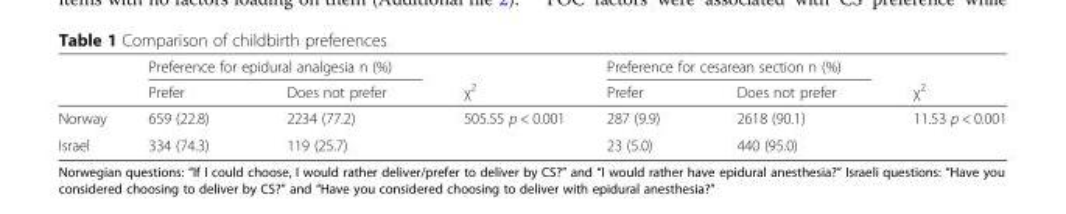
<table><thead><tr><td rowspan="2"></td><td colspan="2">Preference for epidural analgesia n (%)</td><td rowspan="2">χ<sup>2</sup></td><td colspan="2">Preference for cesarean section n (%)</td><td rowspan="2">χ<sup>2</sup></td></tr><tr><td>Prefer</td><td>Does not prefer</td><td>Prefer</td><td>Does not prefer</td></tr></thead><tbody><tr><td>Norway</td><td>659 (22.8)</td><td>2234 (77.2)</td><td rowspan="2">505.55 p &lt; 0.001</td><td>287 (9.9)</td><td>2618 (90.1)</td><td rowspan="2">11.53 p &lt; 0.001</td></tr><tr><td>Israel</td><td>334 (74.3)</td><td>119 (25.7)</td><td>23 (5.0)</td><td>440 (95.0)</td></tr></tbody></table>